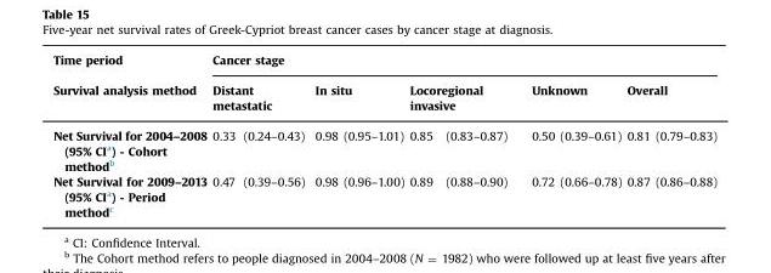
<table><thead><tr><td rowspan="3">Time period Survival analysis method Net Survival for 2004–2008 (95% CI<sup>a</sup>) - Cohort method<sup>b</sup></td><td colspan="10">Cancer stage</td></tr><tr><td colspan="2">Distant metastatic</td><td colspan="2">In situ</td><td colspan="2">Locoregional invasive</td><td colspan="2">Unknown</td><td colspan="2">Overall</td></tr><tr><td>0.33</td><td>(0.24–0.43)</td><td>0.98</td><td>(0.95–1.01)</td><td>0.85</td><td>(0.83–0.87)</td><td>0.50</td><td>(0.39–0.61)</td><td>0.81</td><td>(0.79–0.83)</td></tr></thead><tbody><tr><td>Net Survival for 2009–2013 (95% CI<sup>a</sup>) - Period method<sup>c</sup></td><td>0.47</td><td>(0.39–0.56)</td><td>0.98</td><td>(0.96–1.00)</td><td>0.89</td><td>(0.88–0.90)</td><td>0.72</td><td>(0.66–0.78)</td><td>0.87</td><td>(0.86–0.88)</td></tr></tbody></table>